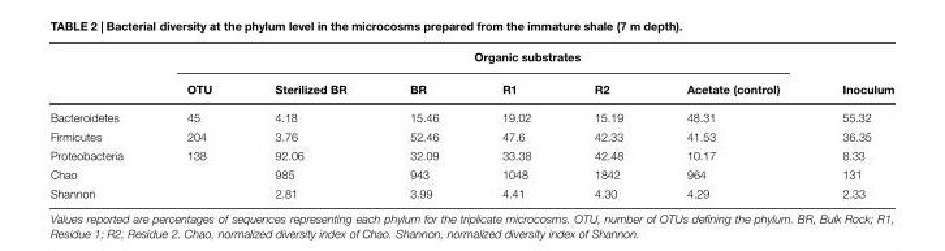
<table><thead><tr><td rowspan="2"></td><td rowspan="2">OTU</td><td colspan="6">Organic substrates</td></tr><tr><td>Sterilized BR</td><td>BR</td><td>R1</td><td>R2</td><td>Acetate (control)</td><td>Inoculum</td></tr></thead><tbody><tr><td>Bacteroidetes</td><td>45</td><td>4.18</td><td>15.46</td><td>19.02</td><td>15.19</td><td>48.31</td><td>55.32</td></tr><tr><td>Firmicutes</td><td>204</td><td>3.76</td><td>52.46</td><td>47.6</td><td>42.33</td><td>41.53</td><td>36.35</td></tr><tr><td>Proteobacteria</td><td>138</td><td>92.06</td><td>32.09</td><td>33.38</td><td>42.48</td><td>10.17</td><td>8.33</td></tr><tr><td>Chao</td><td></td><td>985</td><td>943</td><td>1048</td><td>1842</td><td>964</td><td>131</td></tr><tr><td>Shannon</td><td></td><td>2.81</td><td>3.99</td><td>4.41</td><td>4.30</td><td>4.29</td><td>2.33</td></tr></tbody></table>